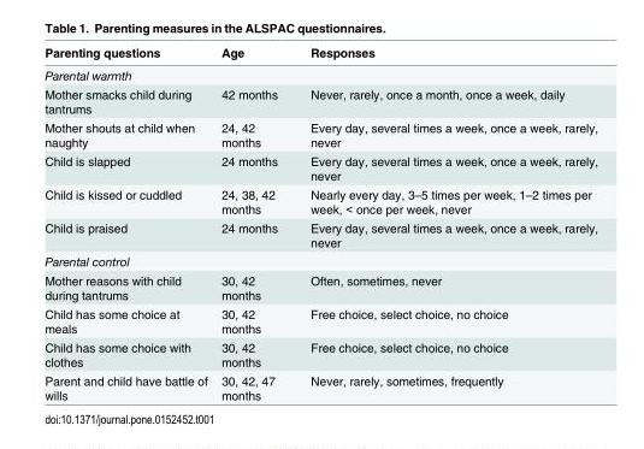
<table><thead><tr><td>Parenting questions</td><td>Age</td><td>Responses</td></tr></thead><tbody><tr><td colspan="3">Parental warmth</td></tr><tr><td>Mother smacks child during tantrums</td><td>42 months</td><td>Never, rarely, once a month, once a week, daily</td></tr><tr><td>Mother shouts at child when naughty</td><td>24, 42 months</td><td>Every day, several times a week, once a week, rarely, never</td></tr><tr><td>Child is slapped</td><td>24 months</td><td>Every day, several times a week, once a week, rarely, never</td></tr><tr><td>Child is kissed or cuddled</td><td>24, 38, 42 months</td><td>Nearly every day, 3–5 times per week, 1–2 times per week, &lt; once per week, never</td></tr><tr><td>Child is praised</td><td>24 months</td><td>Every day, several times a week, once a week, rarely, never</td></tr><tr><td colspan="3">Parental control</td></tr><tr><td>Mother reasons with child during tantrums</td><td>30, 42 months</td><td>Often, sometimes, never</td></tr><tr><td>Child has some choice at meals</td><td>30, 42 months</td><td>Free choice, select choice, no choice</td></tr><tr><td>Child has some choice with clothes</td><td>30, 42 months</td><td>Free choice, select choice, no choice</td></tr><tr><td>Parent and child have battle of wills</td><td>30, 42, 47 months</td><td>Never, rarely, sometimes, frequently</td></tr></tbody></table>